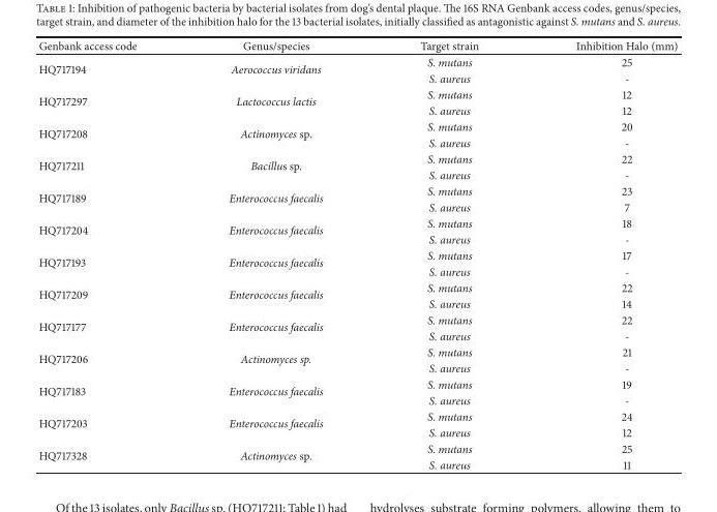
<table><thead><tr><td>Genbank access code</td><td>Genus/species</td><td>Target strain</td><td>Inhibition Halo (mm)</td></tr></thead><tbody><tr><td rowspan="2">HQ717194</td><td rowspan="2">Aerococcus viridans</td><td>S. mutans</td><td>25</td></tr><tr><td>S. aureus</td><td>-</td></tr><tr><td rowspan="2">HQ717297</td><td rowspan="2">Lactococcus lactis</td><td>S. mutans</td><td>12</td></tr><tr><td>S. aureus</td><td>12</td></tr><tr><td rowspan="2">HQ717208</td><td rowspan="2">Actinomyces sp.</td><td>S. mutans</td><td>20</td></tr><tr><td>S. aureus</td><td>-</td></tr><tr><td rowspan="2">HQ717211</td><td rowspan="2">Bacillus sp.</td><td>S. mutans</td><td>22</td></tr><tr><td>S. aureus</td><td>-</td></tr><tr><td rowspan="2">HQ717189</td><td rowspan="2">Enterococcus faecalis</td><td>S. mutans</td><td>23</td></tr><tr><td>S. aureus</td><td>7</td></tr><tr><td rowspan="2">HQ717204</td><td rowspan="2">Enterococcus faecalis</td><td>S. mutans</td><td>18</td></tr><tr><td>S. aureus</td><td>-</td></tr><tr><td rowspan="2">HQ717193</td><td rowspan="2">Enterococcus faecalis</td><td>S. mutans</td><td>17</td></tr><tr><td>S. aureus</td><td>-</td></tr><tr><td rowspan="2">HQ717209</td><td rowspan="2">Enterococcus faecalis</td><td>S. mutans</td><td>22</td></tr><tr><td>S. aureus</td><td>14</td></tr><tr><td rowspan="2">HQ717177</td><td rowspan="2">Enterococcus faecalis</td><td>S. mutans</td><td>22</td></tr><tr><td>S. aureus</td><td>-</td></tr><tr><td rowspan="2">HQ717206</td><td rowspan="2">Actinomyces sp.</td><td>S. mutans</td><td>21</td></tr><tr><td>S. aureus</td><td>-</td></tr><tr><td rowspan="2">HQ717183</td><td rowspan="2">Enterococcus faecalis</td><td>S. mutans</td><td>19</td></tr><tr><td>S. aureus</td><td>-</td></tr><tr><td rowspan="2">HQ717203</td><td rowspan="2">Enterococcus faecalis</td><td>S. mutans</td><td>24</td></tr><tr><td>S. aureus</td><td>12</td></tr><tr><td rowspan="2">HQ717328</td><td rowspan="2">Actinomyces sp.</td><td>S. mutans</td><td>25</td></tr><tr><td>S. aureus</td><td>11</td></tr></tbody></table>